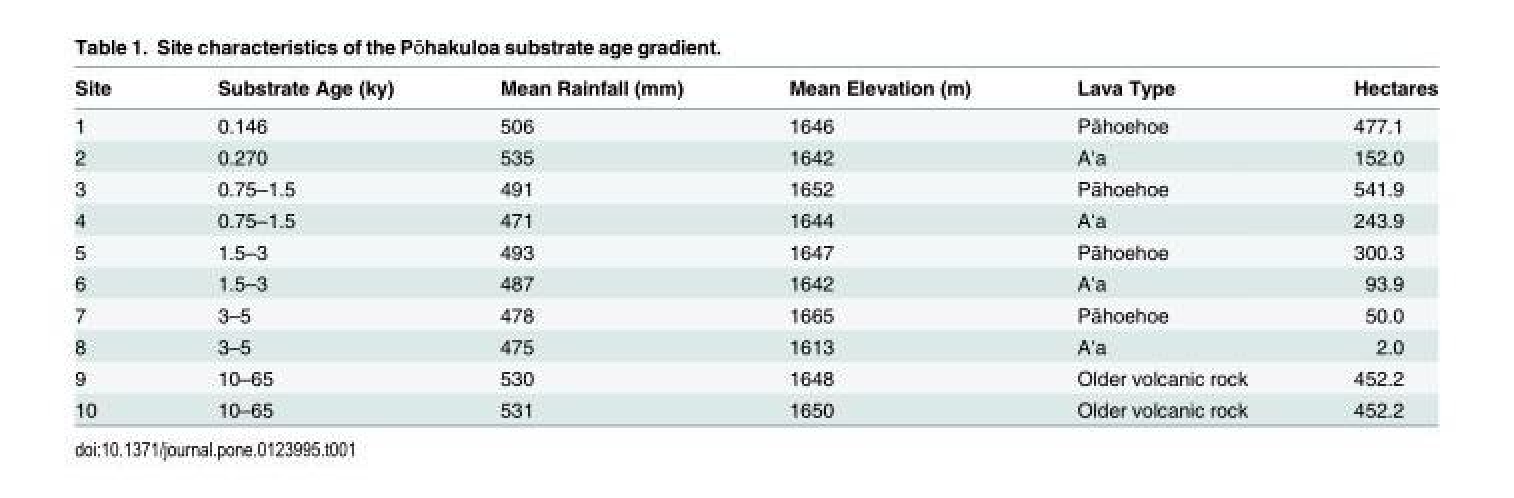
<table><thead><tr><td>Site</td><td>Substrate Age (ky)</td><td>Mean Rainfall (mm)</td><td>Mean Elevation (m)</td><td>Lava Type</td><td>Hectares</td></tr></thead><tbody><tr><td>1</td><td>0.146</td><td>506</td><td>1646</td><td>Pāhoehoe</td><td>477.1</td></tr><tr><td>2</td><td>0.270</td><td>535</td><td>1642</td><td>Aʻa</td><td>152.0</td></tr><tr><td>3</td><td>0.75–1.5</td><td>491</td><td>1652</td><td>Pāhoehoe</td><td>541.9</td></tr><tr><td>4</td><td>0.75–1.5</td><td>471</td><td>1644</td><td>Aʻa</td><td>243.9</td></tr><tr><td>5</td><td>1.5–3</td><td>493</td><td>1647</td><td>Pāhoehoe</td><td>300.3</td></tr><tr><td>6</td><td>1.5–3</td><td>487</td><td>1642</td><td>Aʻa</td><td>93.9</td></tr><tr><td>7</td><td>3–5</td><td>478</td><td>1665</td><td>Pāhoehoe</td><td>50.0</td></tr><tr><td>8</td><td>3–5</td><td>475</td><td>1613</td><td>Aʻa</td><td>2.0</td></tr><tr><td>9</td><td>10–65</td><td>530</td><td>1648</td><td>Older volcanic rock</td><td>452.2</td></tr><tr><td>10</td><td>10–65</td><td>531</td><td>1650</td><td>Older volcanic rock</td><td>452.2</td></tr></tbody></table>